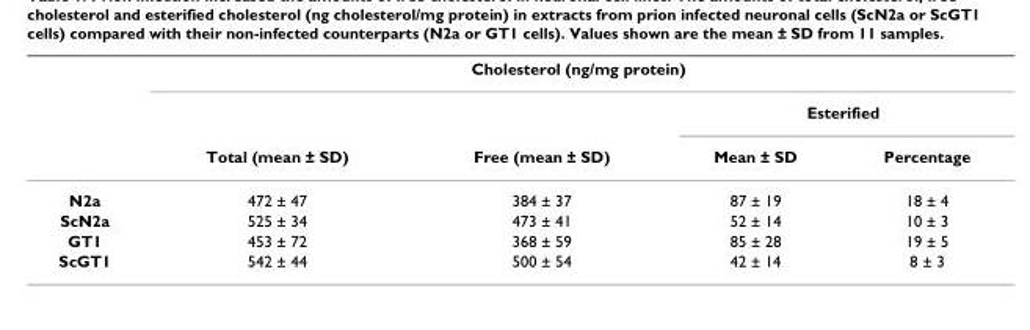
<table><thead><tr><td rowspan="3"></td><td colspan="4">Cholesterol (ng/mg protein)</td></tr><tr><td rowspan="2">Total (mean ± SD)</td><td rowspan="2">Free (mean ± SD)</td><td colspan="2">Esterified</td></tr><tr><td>Mean ± SD</td><td>Percentage</td></tr></thead><tbody><tr><td>N2a</td><td>472 ± 47</td><td>384 ± 37</td><td>87 ± 19</td><td>18 ± 4</td></tr><tr><td>ScN2a</td><td>525 ± 34</td><td>473 ± 41</td><td>52 ± 14</td><td>10 ± 3</td></tr><tr><td>GT1</td><td>453 ± 72</td><td>368 ± 59</td><td>85 ± 28</td><td>19 ± 5</td></tr><tr><td>ScGT1</td><td>542 ± 44</td><td>500 ± 54</td><td>42 ± 14</td><td>8 ± 3</td></tr></tbody></table>